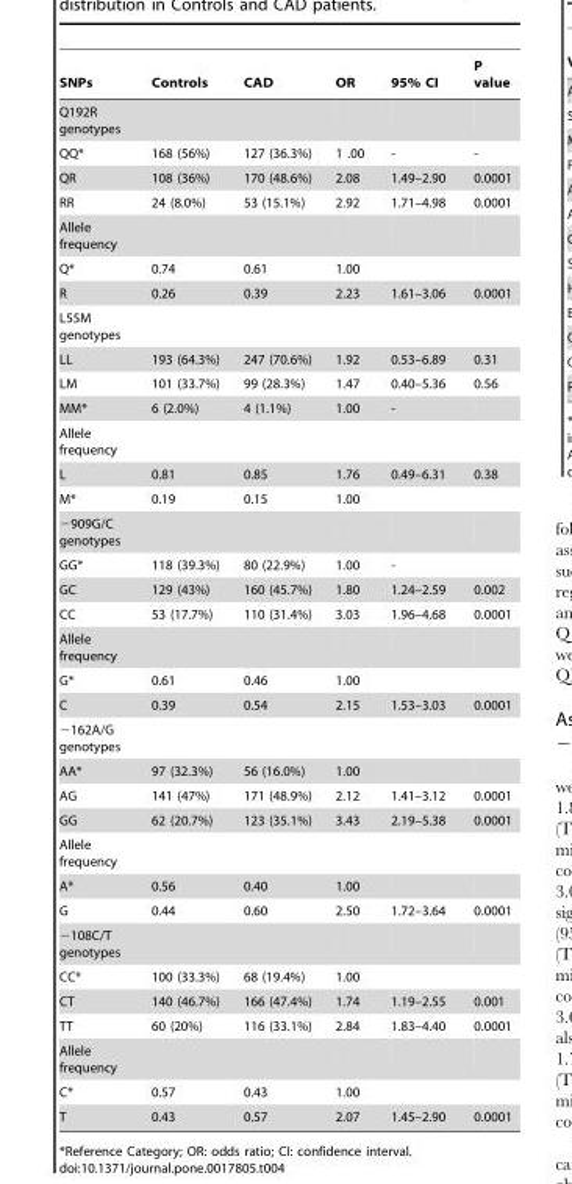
<table><thead><tr><td>SNPs</td><td>Controls</td><td>CAD</td><td>OR</td><td>95% CI</td><td>P value</td></tr></thead><tbody><tr><td colspan="6">Q192R genotypes</td></tr><tr><td>QQ*</td><td>168 (56%)</td><td>127 (36.3%)</td><td>1 .00</td><td>-</td><td>-</td></tr><tr><td>QR</td><td>108 (36%)</td><td>170 (48.6%)</td><td>2.08</td><td>1.49–2.90</td><td>0.0001</td></tr><tr><td>RR</td><td>24 (8.0%)</td><td>53 (15.1%)</td><td>2.92</td><td>1.71–4.98</td><td>0.0001</td></tr><tr><td colspan="6">Allele frequency</td></tr><tr><td>Q*</td><td>0.74</td><td>0.61</td><td>1.00</td><td></td><td></td></tr><tr><td>R</td><td>0.26</td><td>0.39</td><td>2.23</td><td>1.61–3.06</td><td>0.0001</td></tr><tr><td colspan="6">L55M genotypes</td></tr><tr><td>LL</td><td>193 (64.3%)</td><td>247 (70.6%)</td><td>1.92</td><td>0.53–6.89</td><td>0.31</td></tr><tr><td>LM</td><td>101 (33.7%)</td><td>99 (28.3%)</td><td>1.47</td><td>0.40–5.36</td><td>0.56</td></tr><tr><td>MM*</td><td>6 (2.0%)</td><td>4 (1.1%)</td><td>1.00</td><td>-</td><td></td></tr><tr><td colspan="6">Allele frequency</td></tr><tr><td>L</td><td>0.81</td><td>0.85</td><td>1.76</td><td>0.49–6.31</td><td>0.38</td></tr><tr><td>M*</td><td>0.19</td><td>0.15</td><td>1.00</td><td></td><td></td></tr><tr><td colspan="6">−909G/C genotypes</td></tr><tr><td>GG*</td><td>118 (39.3%)</td><td>80 (22.9%)</td><td>1.00</td><td>-</td><td></td></tr><tr><td>GC</td><td>129 (43%)</td><td>160 (45.7%)</td><td>1.80</td><td>1.24–2.59</td><td>0.002</td></tr><tr><td>CC</td><td>53 (17.7%)</td><td>110 (31.4%)</td><td>3.03</td><td>1.96–4.68</td><td>0.0001</td></tr><tr><td colspan="6">Allele frequency</td></tr><tr><td>G*</td><td>0.61</td><td>0.46</td><td>1.00</td><td></td><td></td></tr><tr><td>C</td><td>0.39</td><td>0.54</td><td>2.15</td><td>1.53–3.03</td><td>0.0001</td></tr><tr><td colspan="6">−162A/G genotypes</td></tr><tr><td>AA*</td><td>97 (32.3%)</td><td>56 (16.0%)</td><td>1.00</td><td></td><td></td></tr><tr><td>AG</td><td>141 (47%)</td><td>171 (48.9%)</td><td>2.12</td><td>1.41–3.12</td><td>0.0001</td></tr><tr><td>GG</td><td>62 (20.7%)</td><td>123 (35.1%)</td><td>3.43</td><td>2.19–5.38</td><td>0.0001</td></tr><tr><td colspan="6">Allele frequency</td></tr><tr><td>A*</td><td>0.56</td><td>0.40</td><td>1.00</td><td></td><td></td></tr><tr><td>G</td><td>0.44</td><td>0.60</td><td>2.50</td><td>1.72–3.64</td><td>0.0001</td></tr><tr><td colspan="6">−108C/T genotypes</td></tr><tr><td>CC*</td><td>100 (33.3%)</td><td>68 (19.4%)</td><td>1.00</td><td></td><td></td></tr><tr><td>CT</td><td>140 (46.7%)</td><td>166 (47.4%)</td><td>1.74</td><td>1.19–2.55</td><td>0.001</td></tr><tr><td>TT</td><td>60 (20%)</td><td>116 (33.1%)</td><td>2.84</td><td>1.83–4.40</td><td>0.0001</td></tr><tr><td colspan="6">Allele frequency</td></tr><tr><td>C*</td><td>0.57</td><td>0.43</td><td>1.00</td><td></td><td></td></tr><tr><td>T</td><td>0.43</td><td>0.57</td><td>2.07</td><td>1.45–2.90</td><td>0.0001</td></tr></tbody></table>